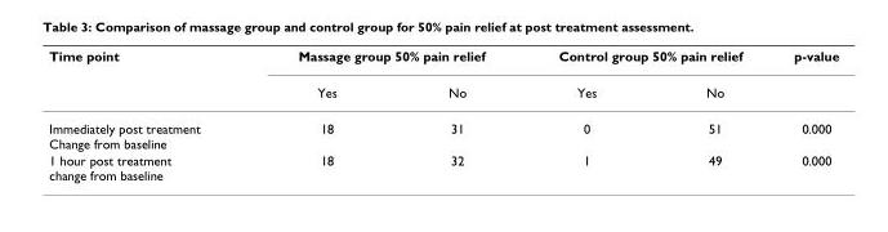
<table><thead><tr><td rowspan="2">Time point</td><td colspan="2">Massage group 50% pain relief</td><td colspan="2">Control group 50% pain relief</td><td rowspan="2">p-value</td></tr><tr><td>Yes</td><td>No</td><td>Yes</td><td>No</td></tr></thead><tbody><tr><td>Immediately post treatment Change from baseline</td><td>18</td><td>31</td><td>0</td><td>51</td><td>0.000</td></tr><tr><td>1 hour post treatment change from baseline</td><td>18</td><td>32</td><td>1</td><td>49</td><td>0.000</td></tr></tbody></table>